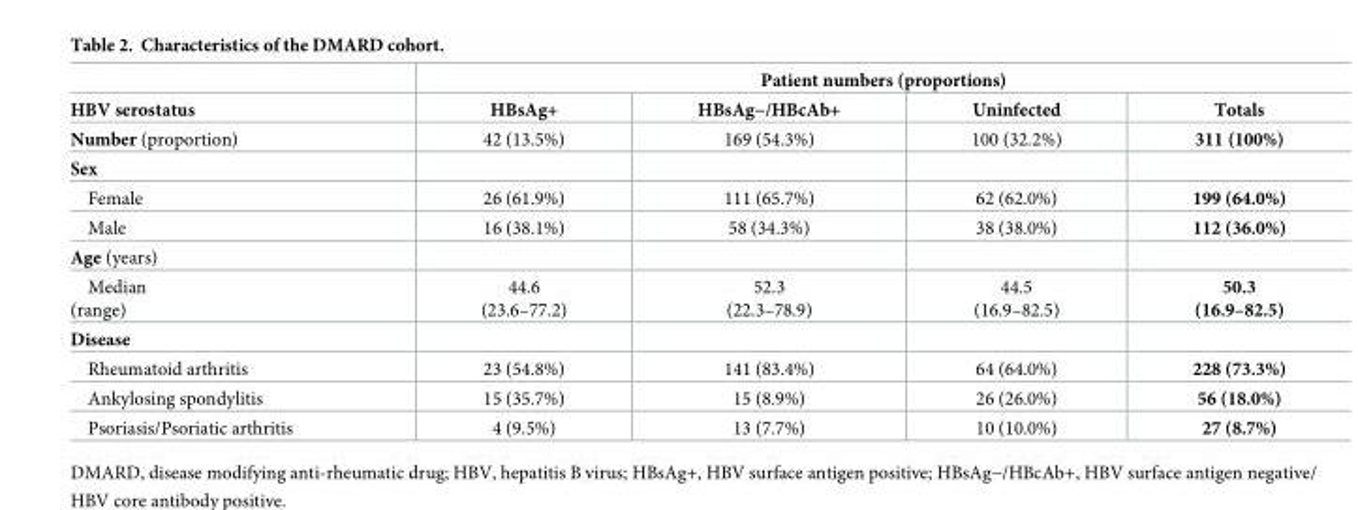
<table><thead><tr><td rowspan="2">HBV serostatus</td><td colspan="4">Patient numbers (proportions)</td></tr><tr><td>HBsAg+</td><td>HBsAg−/HBcAb+</td><td>Uninfected</td><td>Totals</td></tr></thead><tbody><tr><td>Number (proportion)</td><td>42 (13.5%)</td><td>169 (54.3%)</td><td>100 (32.2%)</td><td>311 (100%)</td></tr><tr><td colspan="5">Sex</td></tr><tr><td>Female</td><td>26 (61.9%)</td><td>111 (65.7%)</td><td>62 (62.0%)</td><td>199 (64.0%)</td></tr><tr><td>Male</td><td>16 (38.1%)</td><td>58 (34.3%)</td><td>38 (38.0%)</td><td>112 (36.0%)</td></tr><tr><td colspan="5">Age (years)</td></tr><tr><td>Median (range)</td><td>44.6 (23.6–77.2)</td><td>52.3 (22.3–78.9)</td><td>44.5 (16.9–82.5)</td><td>50.3 (16.9–82.5)</td></tr><tr><td colspan="5">Disease</td></tr><tr><td>Rheumatoid arthritis</td><td>23 (54.8%)</td><td>141 (83.4%)</td><td>64 (64.0%)</td><td>228 (73.3%)</td></tr><tr><td>Ankylosing spondylitis</td><td>15 (35.7%)</td><td>15 (8.9%)</td><td>26 (26.0%)</td><td>56 (18.0%)</td></tr><tr><td>Psoriasis/Psoriatic arthritis</td><td>4 (9.5%)</td><td>13 (7.7%)</td><td>10 (10.0%)</td><td>27 (8.7%)</td></tr></tbody></table>